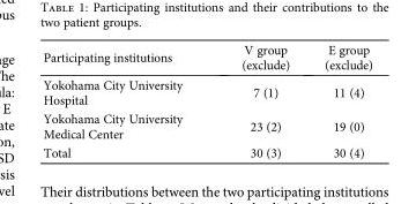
<table><thead><tr><td>Participating institutions</td><td>V group (exclude)</td><td>E group (exclude)</td></tr></thead><tbody><tr><td>Yokohama City University Hospital</td><td>7 (1)</td><td>11 (4)</td></tr><tr><td>Yokohama City University Medical Center</td><td>23 (2)</td><td>19 (0)</td></tr><tr><td>Total</td><td>30 (3)</td><td>30 (4)</td></tr></tbody></table>